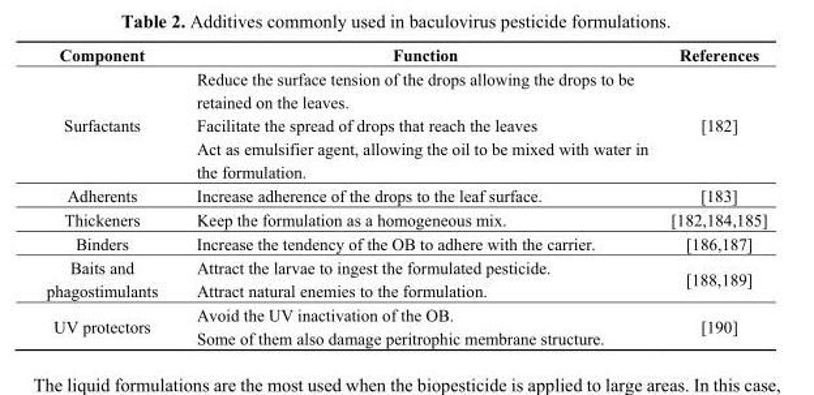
<table><thead><tr><td>Component</td><td>Function</td><td>References</td></tr></thead><tbody><tr><td>Surfactants</td><td>Reduce the surface tension of the drops allowing the drops to be retained on the leaves. Facilitate the spread of drops that reach the leaves Act as emulsifier agent, allowing the oil to be mixed with water in the formulation.</td><td>[182]</td></tr><tr><td>Adherents</td><td>Increase adherence of the drops to the leaf surface.</td><td>[183]</td></tr><tr><td>Thickeners</td><td>Keep the formulation as a homogeneous mix.</td><td>[182,184,185]</td></tr><tr><td>Binders</td><td>Increase the tendency of the OB to adhere with the carrier.</td><td>[186,187]</td></tr><tr><td>Baits and phagostimulants</td><td>Attract the larvae to ingest the formulated pesticide. Attract natural enemies to the formulation.</td><td>[188,189]</td></tr><tr><td>UV protectors</td><td>Avoid the UV inactivation of the OB. Some of them also damage peritrophic membrane structure.</td><td>[190]</td></tr></tbody></table>